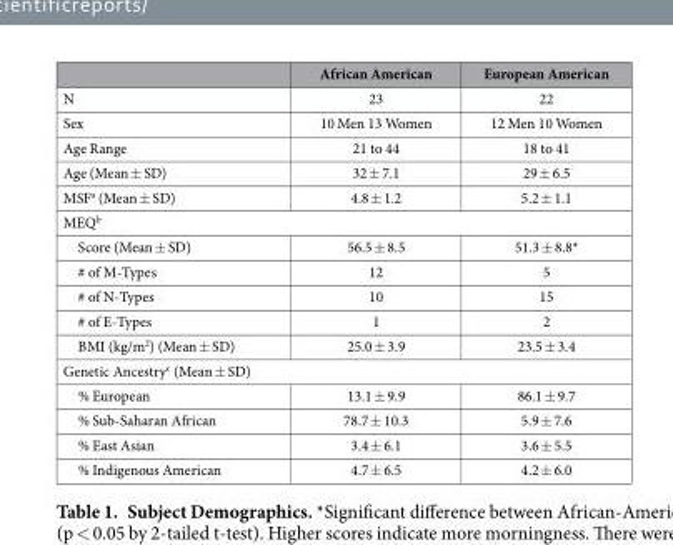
<table><thead><tr><td></td><td>African American</td><td>European American</td></tr></thead><tbody><tr><td>N</td><td>23</td><td>22</td></tr><tr><td>Sex</td><td>10 Men 13 Women</td><td>12 Men 10 Women</td></tr><tr><td>Age Range</td><td>21 to 44</td><td>18 to 41</td></tr><tr><td>Age (Mean ± SD)</td><td>32 ± 7.1</td><td>29 ± 6.5</td></tr><tr><td>MSF<sup>a</sup> (Mean ± SD)</td><td>4.8 ± 1.2</td><td>5.2 ± 1.1</td></tr><tr><td colspan="3">MEQ<sup>b</sup></td></tr><tr><td>Score (Mean ± SD)</td><td>56.5 ± 8.5</td><td>51.3 ± 8.8*</td></tr><tr><td># of M-Types</td><td>12</td><td>5</td></tr><tr><td># of N-Types</td><td>10</td><td>15</td></tr><tr><td># of E-Types</td><td>1</td><td>2</td></tr><tr><td>BMI (kg/m<sup>2</sup>) (Mean ± SD)</td><td>25.0 ± 3.9</td><td>23.5 ± 3.4</td></tr><tr><td colspan="3">Genetic Ancestry<sup>c</sup> (Mean ± SD)</td></tr><tr><td>% European</td><td>13.1 ± 9.9</td><td>86.1 ± 9.7</td></tr><tr><td>% Sub-Saharan African</td><td>78.7 ± 10.3</td><td>5.9 ± 7.6</td></tr><tr><td>% East Asian</td><td>3.4 ± 6.1</td><td>3.6 ± 5.5</td></tr><tr><td>% Indigenous American</td><td>4.7 ± 6.5</td><td>4.2 ± 6.0</td></tr></tbody></table>